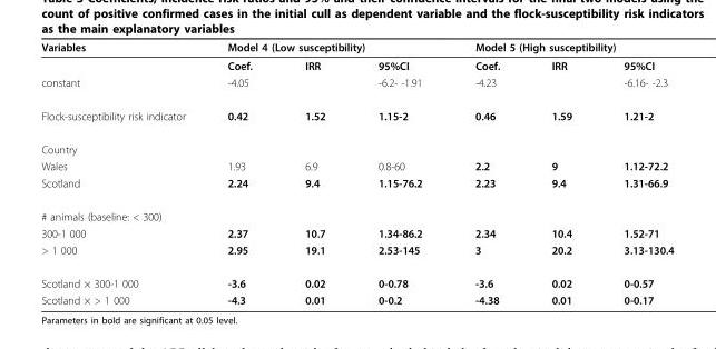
<table><thead><tr><td rowspan="2">Variables</td><td colspan="3">Model 4 (Low susceptibility)</td><td colspan="3">Model 5 (High susceptibility)</td></tr><tr><td>Coef.</td><td>IRR</td><td>95%CI</td><td>Coef.</td><td>IRR</td><td>95%CI</td></tr></thead><tbody><tr><td>constant</td><td>-4.05</td><td></td><td>-6.2- -1.91</td><td>-4.23</td><td></td><td>-6.16- -2.3</td></tr><tr><td>Flock-susceptibility risk indicator</td><td>0.42</td><td>1.52</td><td>1.15-2</td><td>0.46</td><td>1.59</td><td>1.21-2</td></tr><tr><td colspan="7">Country</td></tr><tr><td>Wales</td><td>1.93</td><td>6.9</td><td>0.8-60</td><td>2.2</td><td>9</td><td>1.12-72.2</td></tr><tr><td>Scotland</td><td>2.24</td><td>9.4</td><td>1.15-76.2</td><td>2.23</td><td>9.4</td><td>1.31-66.9</td></tr><tr><td colspan="7"># animals (baseline: &lt; 300)</td></tr><tr><td>300-1 000</td><td>2.37</td><td>10.7</td><td>1.34-86.2</td><td>2.34</td><td>10.4</td><td>1.52-71</td></tr><tr><td>&gt; 1 000</td><td>2.95</td><td>19.1</td><td>2.53-145</td><td>3</td><td>20.2</td><td>3.13-130.4</td></tr><tr><td>Scotland × 300-1 000</td><td>-3.6</td><td>0.02</td><td>0-0.78</td><td>-3.6</td><td>0.02</td><td>0-0.57</td></tr><tr><td>Scotland × &gt; 1 000</td><td>-4.3</td><td>0.01</td><td>0-0.2</td><td>-4.38</td><td>0.01</td><td>0-0.17</td></tr></tbody></table>